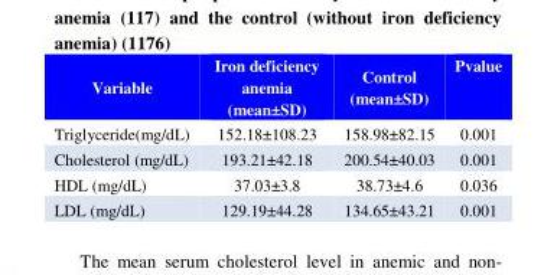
<table><thead><tr><td>Pvalue</td><td>Control (mean±SD)</td><td>Iron deficiency anemia (mean±SD)</td><td>Variable</td></tr></thead><tbody><tr><td>0.001</td><td>158.98±82.15</td><td>152.18±108.23</td><td>Triglyceride(mg/dL)</td></tr><tr><td>0.001</td><td>200.54±40.03</td><td>193.21±42.18</td><td>Cholesterol (mg/dL)</td></tr><tr><td>0.036</td><td>38.73±4.6</td><td>37.03±3.8</td><td>HDL (mg/dL)</td></tr><tr><td>0.001</td><td>134.65±43.21</td><td>129.19±44.28</td><td>LDL (mg/dL)</td></tr></tbody></table>